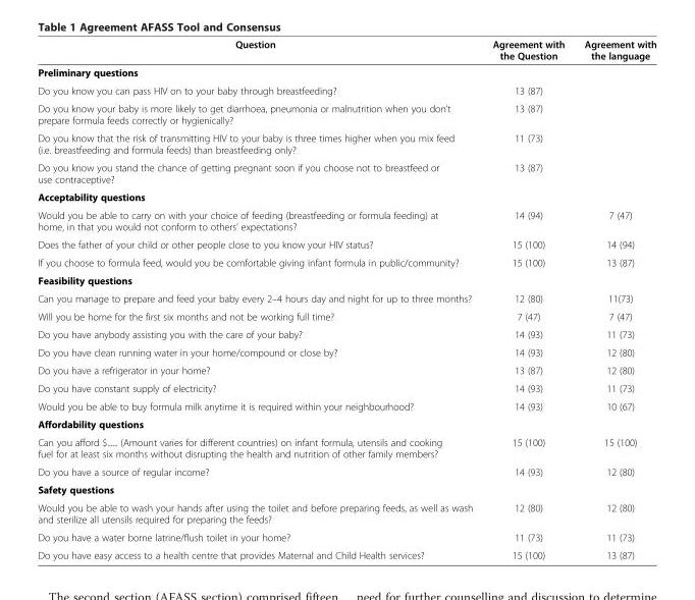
<table><thead><tr><td>Question</td><td>Agreement with the Question</td><td>Agreement with the language</td></tr></thead><tbody><tr><td colspan="3">Preliminary questions</td></tr><tr><td>Do you know you can pass HIV on to your baby through breastfeeding?</td><td>13 (87)</td><td></td></tr><tr><td>Do you know your baby is more likely to get diarrhoea, pneumonia or malnutrition when you don’t prepare formula feeds correctly or hygienically?</td><td>13 (87)</td><td></td></tr><tr><td>Do you know that the risk of transmitting HIV to your baby is three times higher when you mix feed (i.e. breastfeeding and formula feeds) than breastfeeding only?</td><td>11 (73)</td><td></td></tr><tr><td>Do you know you stand the chance of getting pregnant soon if you choose not to breastfeed or use contraceptive?</td><td>13 (87)</td><td></td></tr><tr><td colspan="3">Acceptability questions</td></tr><tr><td>Would you be able to carry on with your choice of feeding (breastfeeding or formula feeding) at home, in that you would not conform to others’ expectations?</td><td>14 (94)</td><td>7 (47)</td></tr><tr><td>Does the father of your child or other people close to you know your HIV status?</td><td>15 (100)</td><td>14 (94)</td></tr><tr><td>If you choose to formula feed, would you be comfortable giving infant formula in public/community?</td><td>15 (100)</td><td>13 (87)</td></tr><tr><td colspan="3">Feasibility questions</td></tr><tr><td>Can you manage to prepare and feed your baby every 2–4 hours day and night for up to three months?</td><td>12 (80)</td><td>11(73)</td></tr><tr><td>Will you be home for the first six months and not be working full time?</td><td>7 (47)</td><td>7 (47)</td></tr><tr><td>Do you have anybody assisting you with the care of your baby?</td><td>14 (93)</td><td>11 (73)</td></tr><tr><td>Do you have clean running water in your home/compound or close by?</td><td>14 (93)</td><td>12 (80)</td></tr><tr><td>Do you have a refrigerator in your home?</td><td>13 (87)</td><td>12 (80)</td></tr><tr><td>Do you have constant supply of electricity?</td><td>14 (93)</td><td>11 (73)</td></tr><tr><td>Would you be able to buy formula milk anytime it is required within your neighbourhood?</td><td>14 (93)</td><td>10 (67)</td></tr><tr><td colspan="3">Affordability questions</td></tr><tr><td>Can you afford $...... (Amount varies for different countries) on infant formula, utensils and cooking fuel for at least six months without disrupting the health and nutrition of other family members?</td><td>15 (100)</td><td>15 (100)</td></tr><tr><td>Do you have a source of regular income?</td><td>14 (93)</td><td>12 (80)</td></tr><tr><td colspan="3">Safety questions</td></tr><tr><td>Would you be able to wash your hands after using the toilet and before preparing feeds, as well as wash and sterilize all utensils required for preparing the feeds?</td><td>12 (80)</td><td>12 (80)</td></tr><tr><td>Do you have a water borne latrine/flush toilet in your home?</td><td>11 (73)</td><td>11 (73)</td></tr><tr><td>Do you have easy access to a health centre that provides Maternal and Child Health services?</td><td>15 (100)</td><td>13 (87)</td></tr></tbody></table>